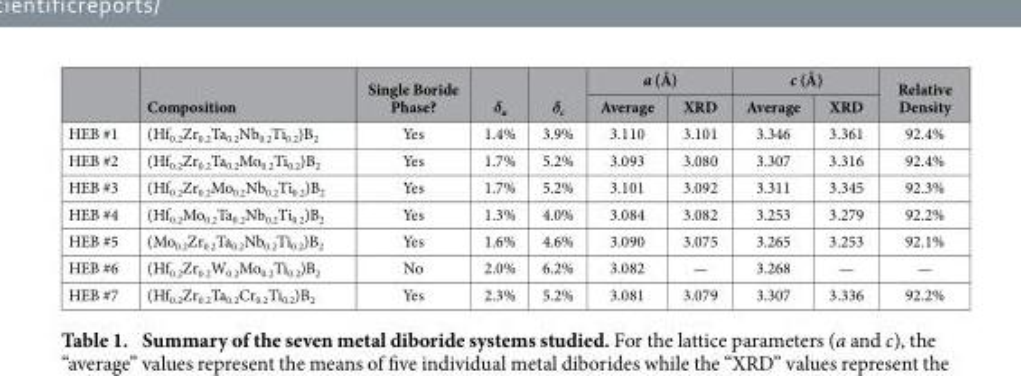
<table><thead><tr><td rowspan="2"></td><td rowspan="2">Composition</td><td rowspan="2">Single Boride Phase?</td><td rowspan="2">δ<sub>a</sub></td><td rowspan="2">δ<sub>c</sub></td><td colspan="2">a (Å)</td><td colspan="2">c (Å)</td><td rowspan="2">Relative Density</td></tr><tr><td>Average</td><td>XRD</td><td>Average</td><td>XRD</td></tr></thead><tbody><tr><td>HEB #1</td><td>(Hf<sub>0.2</sub>Zr<sub>0.2</sub>Ta<sub>0.2</sub>Nb<sub>0.2</sub>Ti<sub>0.2</sub>)B<sub>2</sub></td><td>Yes</td><td>1.4%</td><td>3.9%</td><td>3.110</td><td>3.101</td><td>3.346</td><td>3.361</td><td>92.4%</td></tr><tr><td>HEB #2</td><td>(Hf<sub>0.2</sub>Zr<sub>0.2</sub>Ta<sub>0.2</sub>Mo<sub>0.2</sub>Ti<sub>0.2</sub>)B<sub>2</sub></td><td>Yes</td><td>1.7%</td><td>5.2%</td><td>3.093</td><td>3.080</td><td>3.307</td><td>3.316</td><td>92.4%</td></tr><tr><td>HEB #3</td><td>(Hf<sub>0.2</sub>Zr<sub>0.2</sub>Mo<sub>0.2</sub>Nb<sub>0.2</sub>Ti<sub>0.2</sub>)B<sub>2</sub></td><td>Yes</td><td>1.7%</td><td>5.2%</td><td>3.101</td><td>3.092</td><td>3.311</td><td>3.345</td><td>92.3%</td></tr><tr><td>HEB #4</td><td>(Hf<sub>0.2</sub>Mo<sub>0.2</sub>Ta<sub>0.2</sub>Nb<sub>0.2</sub>Ti<sub>0.2</sub>)B<sub>2</sub></td><td>Yes</td><td>1.3%</td><td>4.0%</td><td>3.084</td><td>3.082</td><td>3.253</td><td>3.279</td><td>92.2%</td></tr><tr><td>HEB #5</td><td>(Mo<sub>0.2</sub>Zr<sub>0.2</sub>Ta<sub>0.2</sub>Nb<sub>0.2</sub>Ti<sub>0.2</sub>)B<sub>2</sub></td><td>Yes</td><td>1.6%</td><td>4.6%</td><td>3.090</td><td>3.075</td><td>3.265</td><td>3.253</td><td>92.1%</td></tr><tr><td>HEB #6</td><td>(Hf<sub>0.2</sub>Zr<sub>0.2</sub>W<sub>0.2</sub>Mo<sub>0.2</sub>Ti<sub>0.2</sub>)B<sub>2</sub></td><td>No</td><td>2.0%</td><td>6.2%</td><td>3.082</td><td>—</td><td>3.268</td><td>—</td><td>—</td></tr><tr><td>HEB #7</td><td>(Hf<sub>0.2</sub>Zr<sub>0.2</sub>Ta<sub>0.2</sub>Cr<sub>0.2</sub>Ti<sub>0.2</sub>)B<sub>2</sub></td><td>Yes</td><td>2.3%</td><td>5.2%</td><td>3.081</td><td>3.079</td><td>3.307</td><td>3.336</td><td>92.2%</td></tr></tbody></table>